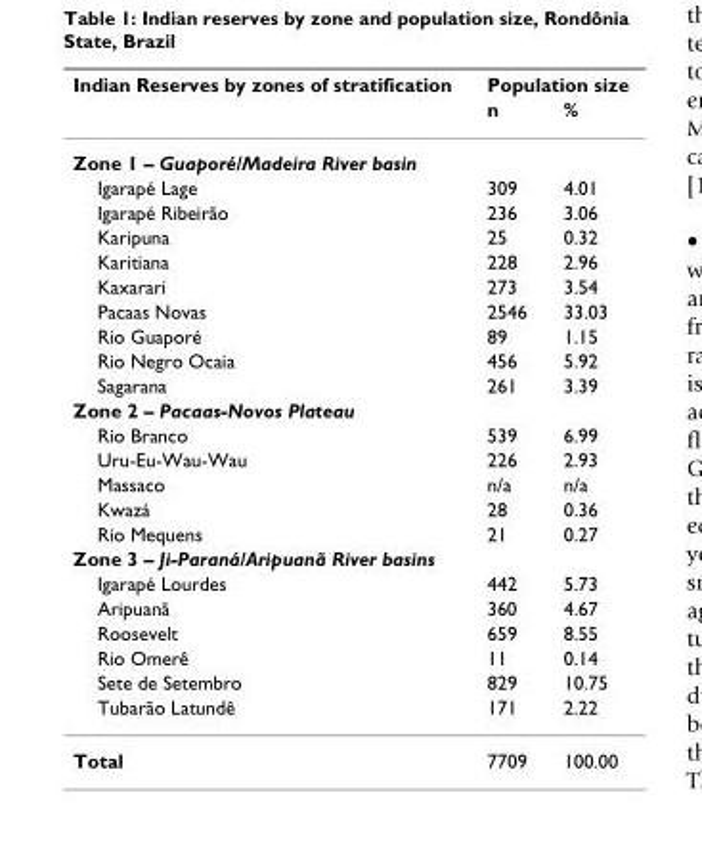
<table><thead><tr><td rowspan="2">Indian Reserves by zones of stratification</td><td colspan="2">Population size</td></tr><tr><td>n</td><td>%</td></tr></thead><tbody><tr><td colspan="3">Zone 1 – Guaporé/Madeira River basin</td></tr><tr><td>Igarapé Lage</td><td>309</td><td>4.01</td></tr><tr><td>Igarapé Ribeirão</td><td>236</td><td>3.06</td></tr><tr><td>Karipuna</td><td>25</td><td>0.32</td></tr><tr><td>Karitiana</td><td>228</td><td>2.96</td></tr><tr><td>Kaxarari</td><td>273</td><td>3.54</td></tr><tr><td>Pacaas Novas</td><td>2546</td><td>33.03</td></tr><tr><td>Rio Guaporé</td><td>89</td><td>1.15</td></tr><tr><td>Rio Negro Ocaia</td><td>456</td><td>5.92</td></tr><tr><td>Sagarana</td><td>261</td><td>3.39</td></tr><tr><td colspan="3">Zone 2 – Pacaas-Novos Plateau</td></tr><tr><td>Rio Branco</td><td>539</td><td>6.99</td></tr><tr><td>Uru-Eu-Wau-Wau</td><td>226</td><td>2.93</td></tr><tr><td>Massaco</td><td>n/a</td><td>n/a</td></tr><tr><td>Kwazá</td><td>28</td><td>0.36</td></tr><tr><td>Rio Mequens</td><td>21</td><td>0.27</td></tr><tr><td colspan="3">Zone 3 – Ji-Paraná/Aripuanã River basins</td></tr><tr><td>Igarapé Lourdes</td><td>442</td><td>5.73</td></tr><tr><td>Aripuanã</td><td>360</td><td>4.67</td></tr><tr><td>Roosevelt</td><td>659</td><td>8.55</td></tr><tr><td>Rio Omerê</td><td>11</td><td>0.14</td></tr><tr><td>Sete de Setembro</td><td>829</td><td>10.75</td></tr><tr><td>Tubarão Latundê</td><td>171</td><td>2.22</td></tr><tr><td>Total</td><td>7709</td><td>100.00</td></tr></tbody></table>